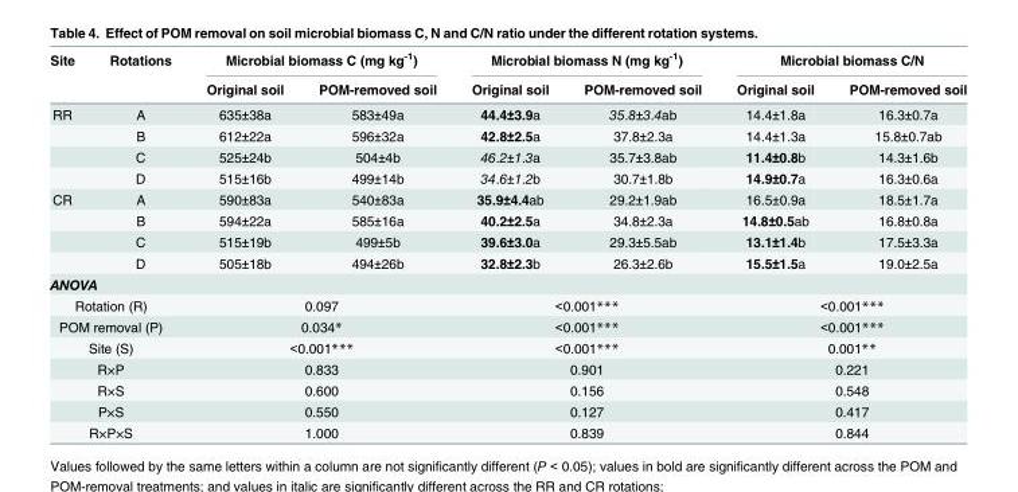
<table><thead><tr><td rowspan="2">Site</td><td rowspan="2">Rotations</td><td colspan="2">Microbial biomass C (mg kg<sup>-1</sup>)</td><td colspan="2">Microbial biomass N (mg kg<sup>-1</sup>)</td><td colspan="2">Microbial biomass C/N</td></tr><tr><td>Original soil</td><td>POM-removed soil</td><td>Original soil</td><td>POM-removed soil</td><td>Original soil</td><td>POM-removed soil</td></tr></thead><tbody><tr><td rowspan="4">RR</td><td>A</td><td>635±38a</td><td>583±49a</td><td>44.4±3.9a</td><td>35.8±3.4ab</td><td>14.4±1.8a</td><td>16.3±0.7a</td></tr><tr><td>B</td><td>612±22a</td><td>596±32a</td><td>42.8±2.5a</td><td>37.8±2.3a</td><td>14.4±1.3a</td><td>15.8±0.7ab</td></tr><tr><td>C</td><td>525±24b</td><td>504±4b</td><td>46.2±1.3a</td><td>35.7±3.8ab</td><td>11.4±0.8b</td><td>14.3±1.6b</td></tr><tr><td>D</td><td>515±16b</td><td>499±14b</td><td>34.6±1.2b</td><td>30.7±1.8b</td><td>14.9±0.7a</td><td>16.3±0.6a</td></tr><tr><td rowspan="4">CR</td><td>A</td><td>590±83a</td><td>540±83a</td><td>35.9±4.4ab</td><td>29.2±1.9ab</td><td>16.5±0.9a</td><td>18.5±1.7a</td></tr><tr><td>B</td><td>594±22a</td><td>585±16a</td><td>40.2±2.5a</td><td>34.8±2.3a</td><td>14.8±0.5ab</td><td>16.8±0.8a</td></tr><tr><td>C</td><td>515±19b</td><td>499±5b</td><td>39.6±3.0a</td><td>29.3±5.5ab</td><td>13.1±1.4b</td><td>17.5±3.3a</td></tr><tr><td>D</td><td>505±18b</td><td>494±26b</td><td>32.8±2.3b</td><td>26.3±2.6b</td><td>15.5±1.5a</td><td>19.0±2.5a</td></tr><tr><td colspan="8">ANOVA</td></tr><tr><td colspan="2">Rotation (R)</td><td colspan="2">0.097</td><td colspan="2">&lt;0.001***</td><td colspan="2">&lt;0.001***</td></tr><tr><td colspan="2">POM removal (P)</td><td colspan="2">0.034*</td><td colspan="2">&lt;0.001***</td><td colspan="2">&lt;0.001***</td></tr><tr><td colspan="2">Site (S)</td><td colspan="2">&lt;0.001***</td><td colspan="2">&lt;0.001***</td><td colspan="2">0.001**</td></tr><tr><td colspan="2">R×P</td><td colspan="2">0.833</td><td colspan="2">0.901</td><td colspan="2">0.221</td></tr><tr><td colspan="2">R×S</td><td colspan="2">0.600</td><td colspan="2">0.156</td><td colspan="2">0.548</td></tr><tr><td colspan="2">P×S</td><td colspan="2">0.550</td><td colspan="2">0.127</td><td colspan="2">0.417</td></tr><tr><td colspan="2">R×P×S</td><td colspan="2">1.000</td><td colspan="2">0.839</td><td colspan="2">0.844</td></tr></tbody></table>